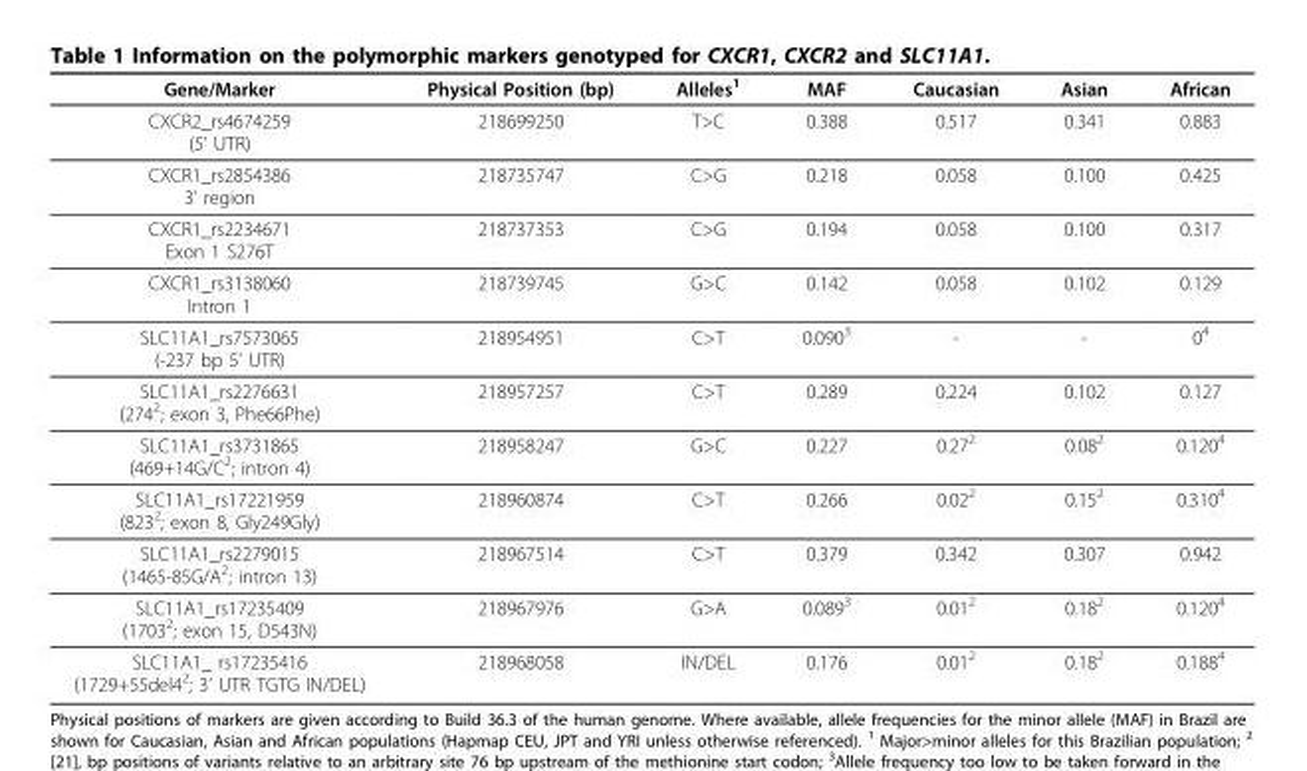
<table><thead><tr><td>Gene/Marker</td><td>Physical Position (bp)</td><td>Alleles<sup>1</sup></td><td>MAF</td><td>Caucasian</td><td>Asian</td><td>African</td></tr></thead><tbody><tr><td>CXCR2_rs4674259 (5’ UTR)</td><td>218699250</td><td>T&gt;C</td><td>0.388</td><td>0.517</td><td>0.341</td><td>0.883</td></tr><tr><td>CXCR1_rs2854386 3’ region</td><td>218735747</td><td>C&gt;G</td><td>0.218</td><td>0.058</td><td>0.100</td><td>0.425</td></tr><tr><td>CXCR1_rs2234671 Exon 1 S276T</td><td>218737353</td><td>C&gt;G</td><td>0.194</td><td>0.058</td><td>0.100</td><td>0.317</td></tr><tr><td>CXCR1_rs3138060 Intron 1</td><td>218739745</td><td>G&gt;C</td><td>0.142</td><td>0.058</td><td>0.102</td><td>0.129</td></tr><tr><td>SLC11A1_rs7573065 (-237 bp 5’ UTR)</td><td>218954951</td><td>C&gt;T</td><td>0.090<sup>3</sup></td><td>-</td><td>-</td><td>0<sup>4</sup></td></tr><tr><td>SLC11A1_rs2276631 (274<sup>2</sup>; exon 3, Phe66Phe)</td><td>218957257</td><td>C&gt;T</td><td>0.289</td><td>0.224</td><td>0.102</td><td>0.127</td></tr><tr><td>SLC11A1_rs3731865 (469+14G/C<sup>2</sup>; intron 4)</td><td>218958247</td><td>G&gt;C</td><td>0.227</td><td>0.27<sup>2</sup></td><td>0.08<sup>2</sup></td><td>0.120<sup>4</sup></td></tr><tr><td>SLC11A1_rs17221959 (823<sup>2</sup>; exon 8, Gly249Gly)</td><td>218960874</td><td>C&gt;T</td><td>0.266</td><td>0.02<sup>2</sup></td><td>0.15<sup>2</sup></td><td>0.310<sup>4</sup></td></tr><tr><td>SLC11A1_rs2279015 (1465-85G/A<sup>2</sup>; intron 13)</td><td>218967514</td><td>C&gt;T</td><td>0.379</td><td>0.342</td><td>0.307</td><td>0.942</td></tr><tr><td>SLC11A1_rs17235409 (1703<sup>2</sup>; exon 15, D543N)</td><td>218967976</td><td>G&gt;A</td><td>0.089<sup>3</sup></td><td>0.01<sup>2</sup></td><td>0.18<sup>2</sup></td><td>0.120<sup>4</sup></td></tr><tr><td>SLC11A1_ rs17235416 (1729+55del4<sup>2</sup>; 3’ UTR TGTG IN/DEL)</td><td>218968058</td><td>IN/DEL</td><td>0.176</td><td>0.01<sup>2</sup></td><td>0.18<sup>2</sup></td><td>0.188<sup>4</sup></td></tr></tbody></table>